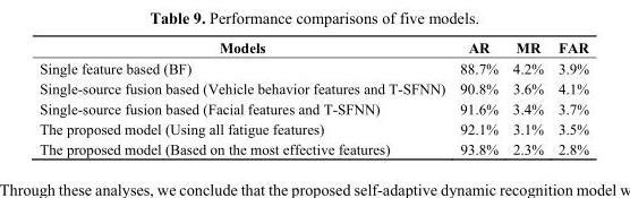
<table><thead><tr><td>Models</td><td>AR</td><td>MR</td><td>FAR</td></tr></thead><tbody><tr><td>Single feature based (BF)</td><td>88.7%</td><td>4.2%</td><td>3.9%</td></tr><tr><td>Single-source fusion based (Vehicle behavior features and T-SFNN)</td><td>90.8%</td><td>3.6%</td><td>4.1%</td></tr><tr><td>Single-source fusion based (Facial features and T-SFNN)</td><td>91.6%</td><td>3.4%</td><td>3.7%</td></tr><tr><td>The proposed model (Using all fatigue features)</td><td>92.1%</td><td>3.1%</td><td>3.5%</td></tr><tr><td>The proposed model (Based on the most effective features)</td><td>93.8%</td><td>2.3%</td><td>2.8%</td></tr></tbody></table>